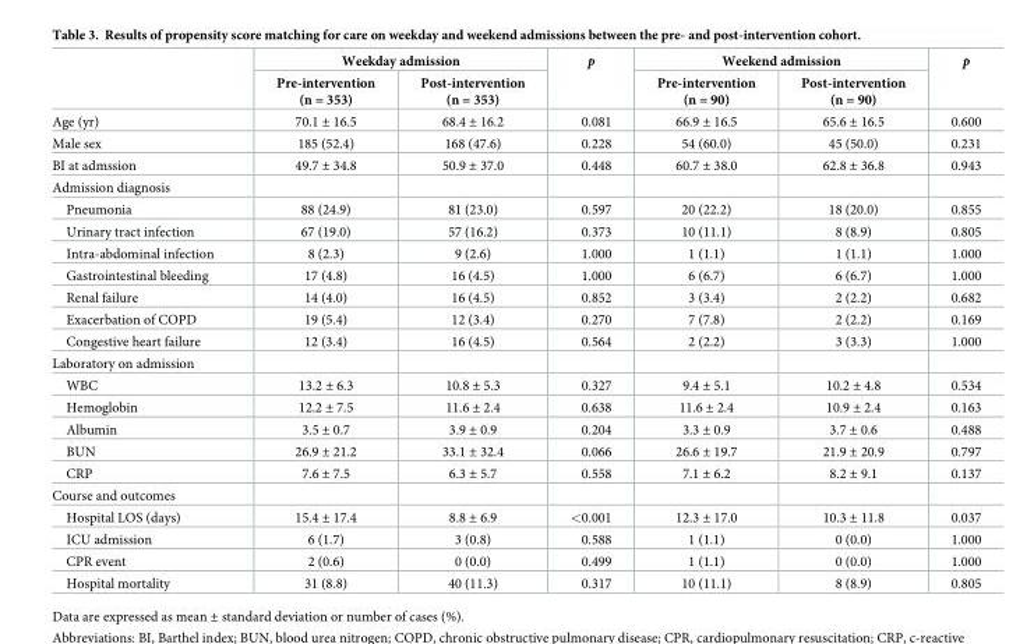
<table><thead><tr><td rowspan="2"></td><td colspan="2">Weekday admission</td><td rowspan="2">p</td><td colspan="2">Weekend admission</td><td rowspan="2">p</td></tr><tr><td>Pre-intervention (n = 353)</td><td>Post-intervention (n = 353)</td><td>Pre-intervention (n = 90)</td><td>Post-intervention (n = 90)</td></tr></thead><tbody><tr><td>Age (yr)</td><td>70.1 ± 16.5</td><td>68.4 ± 16.2</td><td>0.081</td><td>66.9 ± 16.5</td><td>65.6 ± 16.5</td><td>0.600</td></tr><tr><td>Male sex</td><td>185 (52.4)</td><td>168 (47.6)</td><td>0.228</td><td>54 (60.0)</td><td>45 (50.0)</td><td>0.231</td></tr><tr><td>BI at admssion</td><td>49.7 ± 34.8</td><td>50.9 ± 37.0</td><td>0.448</td><td>60.7 ± 38.0</td><td>62.8 ± 36.8</td><td>0.943</td></tr><tr><td colspan="7">Admission diagnosis</td></tr><tr><td>Pneumonia</td><td>88 (24.9)</td><td>81 (23.0)</td><td>0.597</td><td>20 (22.2)</td><td>18 (20.0)</td><td>0.855</td></tr><tr><td>Urinary tract infection</td><td>67 (19.0)</td><td>57 (16.2)</td><td>0.373</td><td>10 (11.1)</td><td>8 (8.9)</td><td>0.805</td></tr><tr><td>Intra-abdominal infection</td><td>8 (2.3)</td><td>9 (2.6)</td><td>1.000</td><td>1 (1.1)</td><td>1 (1.1)</td><td>1.000</td></tr><tr><td>Gastrointestinal bleeding</td><td>17 (4.8)</td><td>16 (4.5)</td><td>1.000</td><td>6 (6.7)</td><td>6 (6.7)</td><td>1.000</td></tr><tr><td>Renal failure</td><td>14 (4.0)</td><td>16 (4.5)</td><td>0.852</td><td>3 (3.4)</td><td>2 (2.2)</td><td>0.682</td></tr><tr><td>Exacerbation of COPD</td><td>19 (5.4)</td><td>12 (3.4)</td><td>0.270</td><td>7 (7.8)</td><td>2 (2.2)</td><td>0.169</td></tr><tr><td>Congestive heart failure</td><td>12 (3.4)</td><td>16 (4.5)</td><td>0.564</td><td>2 (2.2)</td><td>3 (3.3)</td><td>1.000</td></tr><tr><td colspan="7">Laboratory on admission</td></tr><tr><td>WBC</td><td>13.2 ± 6.3</td><td>10.8 ± 5.3</td><td>0.327</td><td>9.4 ± 5.1</td><td>10.2 ± 4.8</td><td>0.534</td></tr><tr><td>Hemoglobin</td><td>12.2 ± 7.5</td><td>11.6 ± 2.4</td><td>0.638</td><td>11.6 ± 2.4</td><td>10.9 ± 2.4</td><td>0.163</td></tr><tr><td>Albumin</td><td>3.5 ± 0.7</td><td>3.9 ± 0.9</td><td>0.204</td><td>3.3 ± 0.9</td><td>3.7 ± 0.6</td><td>0.488</td></tr><tr><td>BUN</td><td>26.9 ± 21.2</td><td>33.1 ± 32.4</td><td>0.066</td><td>26.6 ± 19.7</td><td>21.9 ± 20.9</td><td>0.797</td></tr><tr><td>CRP</td><td>7.6 ± 7.5</td><td>6.3 ± 5.7</td><td>0.558</td><td>7.1 ± 6.2</td><td>8.2 ± 9.1</td><td>0.137</td></tr><tr><td colspan="7">Course and outcomes</td></tr><tr><td>Hospital LOS (days)</td><td>15.4 ± 17.4</td><td>8.8 ± 6.9</td><td>&lt;0.001</td><td>12.3 ± 17.0</td><td>10.3 ± 11.8</td><td>0.037</td></tr><tr><td>ICU admission</td><td>6 (1.7)</td><td>3 (0.8)</td><td>0.588</td><td>1 (1.1)</td><td>0 (0.0)</td><td>1.000</td></tr><tr><td>CPR event</td><td>2 (0.6)</td><td>0 (0.0)</td><td>0.499</td><td>1 (1.1)</td><td>0 (0.0)</td><td>1.000</td></tr><tr><td>Hospital mortality</td><td>31 (8.8)</td><td>40 (11.3)</td><td>0.317</td><td>10 (11.1)</td><td>8 (8.9)</td><td>0.805</td></tr></tbody></table>